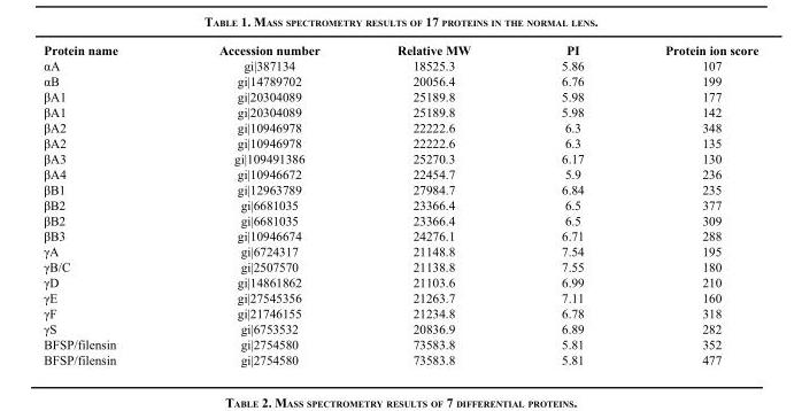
<table><thead><tr><td>Protein name</td><td>Accession number</td><td>Relative MW</td><td>PI</td><td>Protein ion score</td></tr></thead><tbody><tr><td>αA</td><td>gi|387134</td><td>18525.3</td><td>5.86</td><td>107</td></tr><tr><td>αB</td><td>gi|14789702</td><td>20056.4</td><td>6.76</td><td>199</td></tr><tr><td>βA1</td><td>gi|20304089</td><td>25189.8</td><td>5.98</td><td>177</td></tr><tr><td>βA1</td><td>gi|20304089</td><td>25189.8</td><td>5.98</td><td>142</td></tr><tr><td>βA2</td><td>gi|10946978</td><td>22222.6</td><td>6.3</td><td>348</td></tr><tr><td>βA2</td><td>gi|10946978</td><td>22222.6</td><td>6.3</td><td>135</td></tr><tr><td>βA3</td><td>gi|109491386</td><td>25270.3</td><td>6.17</td><td>130</td></tr><tr><td>βA4</td><td>gi|10946672</td><td>22454.7</td><td>5.9</td><td>236</td></tr><tr><td>βB1</td><td>gi|12963789</td><td>27984.7</td><td>6.84</td><td>235</td></tr><tr><td>βB2</td><td>gi|6681035</td><td>23366.4</td><td>6.5</td><td>377</td></tr><tr><td>βB2</td><td>gi|6681035</td><td>23366.4</td><td>6.5</td><td>309</td></tr><tr><td>βB3</td><td>gi|10946674</td><td>24276.1</td><td>6.71</td><td>288</td></tr><tr><td>γA</td><td>gi|6724317</td><td>21148.8</td><td>7.54</td><td>195</td></tr><tr><td>γB/C</td><td>gi|2507570</td><td>21138.8</td><td>7.55</td><td>180</td></tr><tr><td>γD</td><td>gi|14861862</td><td>21103.6</td><td>6.99</td><td>210</td></tr><tr><td>γE</td><td>gi|27545356</td><td>21263.7</td><td>7.11</td><td>160</td></tr><tr><td>γF</td><td>gi|21746155</td><td>21234.8</td><td>6.78</td><td>318</td></tr><tr><td>γS</td><td>gi|6753532</td><td>20836.9</td><td>6.89</td><td>282</td></tr><tr><td>BFSP/filensin</td><td>gi|2754580</td><td>73583.8</td><td>5.81</td><td>352</td></tr><tr><td>BFSP/filensin</td><td>gi|2754580</td><td>73583.8</td><td>5.81</td><td>477</td></tr></tbody></table>